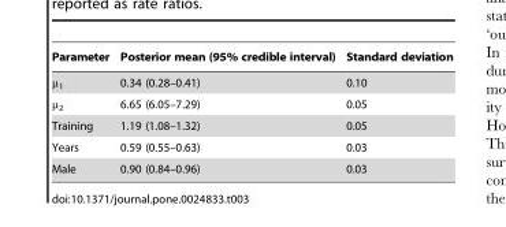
<table><thead><tr><td>Parameter</td><td>Posterior mean (95% credible interval)</td><td>Standard deviation</td></tr></thead><tbody><tr><td>μ<sub>1</sub></td><td>0.34 (0.28–0.41)</td><td>0.10</td></tr><tr><td>μ<sub>2</sub></td><td>6.65 (6.05–7.29)</td><td>0.05</td></tr><tr><td>Training</td><td>1.19 (1.08–1.32)</td><td>0.05</td></tr><tr><td>Years</td><td>0.59 (0.55–0.63)</td><td>0.03</td></tr><tr><td>Male</td><td>0.90 (0.84–0.96)</td><td>0.03</td></tr></tbody></table>